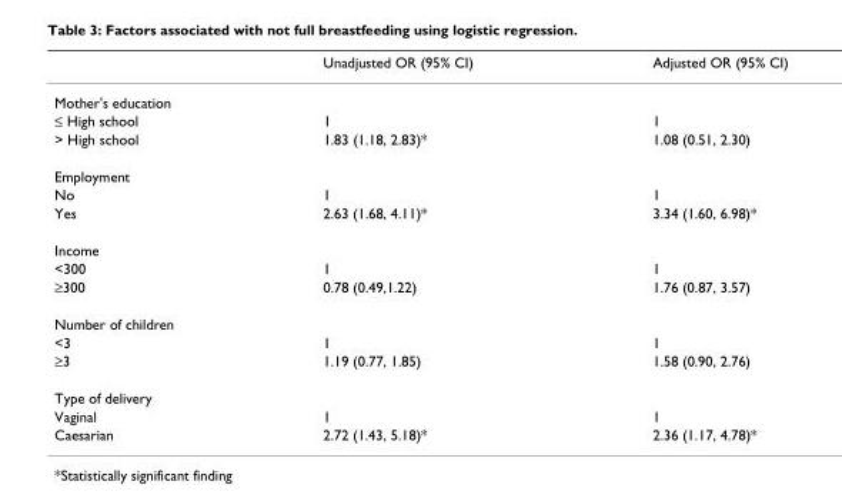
<table><thead><tr><td></td><td>Unadjusted OR (95% CI)</td><td>Adjusted OR (95% CI)</td></tr></thead><tbody><tr><td colspan="3">Mother&#x27;s education</td></tr><tr><td>≤ High school</td><td>1</td><td>1</td></tr><tr><td>&gt; High school</td><td>1.83 (1.18, 2.83)*</td><td>1.08 (0.51, 2.30)</td></tr><tr><td colspan="3">Employment</td></tr><tr><td>No</td><td>1</td><td>1</td></tr><tr><td>Yes</td><td>2.63 (1.68, 4.11)*</td><td>3.34 (1.60, 6.98)*</td></tr><tr><td colspan="3">Income</td></tr><tr><td>&lt;300</td><td>1</td><td>1</td></tr><tr><td>≥300</td><td>0.78 (0.49,1.22)</td><td>1.76 (0.87, 3.57)</td></tr><tr><td colspan="3">Number of children</td></tr><tr><td>&lt;3</td><td>1</td><td>1</td></tr><tr><td>≥3</td><td>1.19 (0.77, 1.85)</td><td>1.58 (0.90, 2.76)</td></tr><tr><td colspan="3">Type of delivery</td></tr><tr><td>Vaginal</td><td>1</td><td>1</td></tr><tr><td>Caesarian</td><td>2.72 (1.43, 5.18)*</td><td>2.36 (1.17, 4.78)*</td></tr></tbody></table>